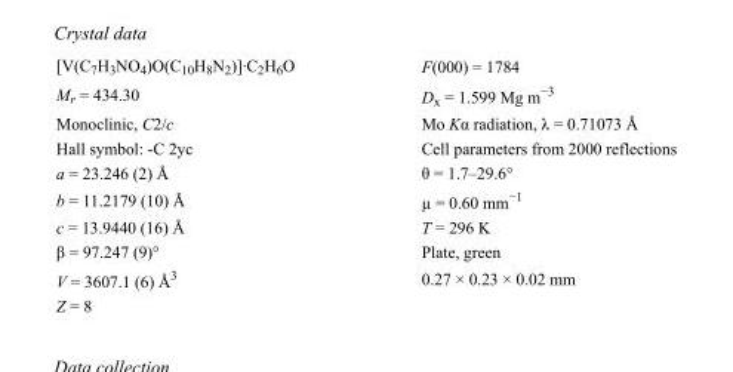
<table><tbody><tr><td>[V(C<sub>7</sub>H<sub>3</sub>NO<sub>4</sub>)O(C<sub>10</sub>H<sub>8</sub>N<sub>2</sub>)]·C<sub>2</sub>H<sub>6</sub>O</td><td>F(000) = 1784</td></tr><tr><td>M<sub>r</sub> = 434.30</td><td>D<sub>x</sub> = 1.599 Mg m<sup>−3</sup></td></tr><tr><td>Monoclinic, C2/c</td><td>Mo Kα radiation, λ = 0.71073 Å</td></tr><tr><td>Hall symbol: -C 2yc</td><td>Cell parameters from 2000 reflections</td></tr><tr><td>a = 23.246 (2) Å</td><td>θ = 1.7–29.6°</td></tr><tr><td>b = 11.2179 (10) Å</td><td>µ = 0.60 mm<sup>−1</sup></td></tr><tr><td>c = 13.9440 (16) Å</td><td>T = 296 K</td></tr><tr><td>β = 97.247 (9)°</td><td>Plate, green</td></tr><tr><td>V = 3607.1 (6) Å<sup>3</sup></td><td>0.27 × 0.23 × 0.02 mm</td></tr><tr><td>Z = 8</td><td></td></tr></tbody></table>